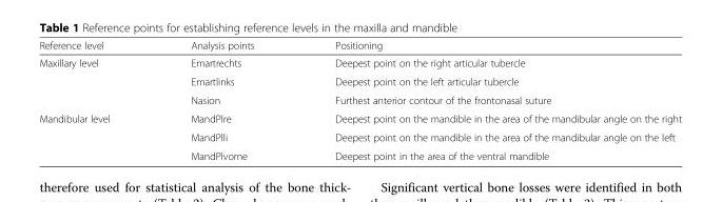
<table><thead><tr><td>Reference level</td><td>Analysis points</td><td>Positioning</td></tr></thead><tbody><tr><td rowspan="3">Maxillary level</td><td>Emartrechts</td><td>Deepest point on the right articular tubercle</td></tr><tr><td>Emartlinks</td><td>Deepest point on the left articular tubercle</td></tr><tr><td>Nasion</td><td>Furthest anterior contour of the frontonasal suture</td></tr><tr><td rowspan="3">Mandibular level</td><td>MandPlre</td><td>Deepest point on the mandible in the area of the mandibular angle on the right</td></tr><tr><td>MandPlli</td><td>Deepest point on the mandible in the area of the mandibular angle on the left</td></tr><tr><td>MandPlvorne</td><td>Deepest point in the area of the ventral mandible</td></tr></tbody></table>